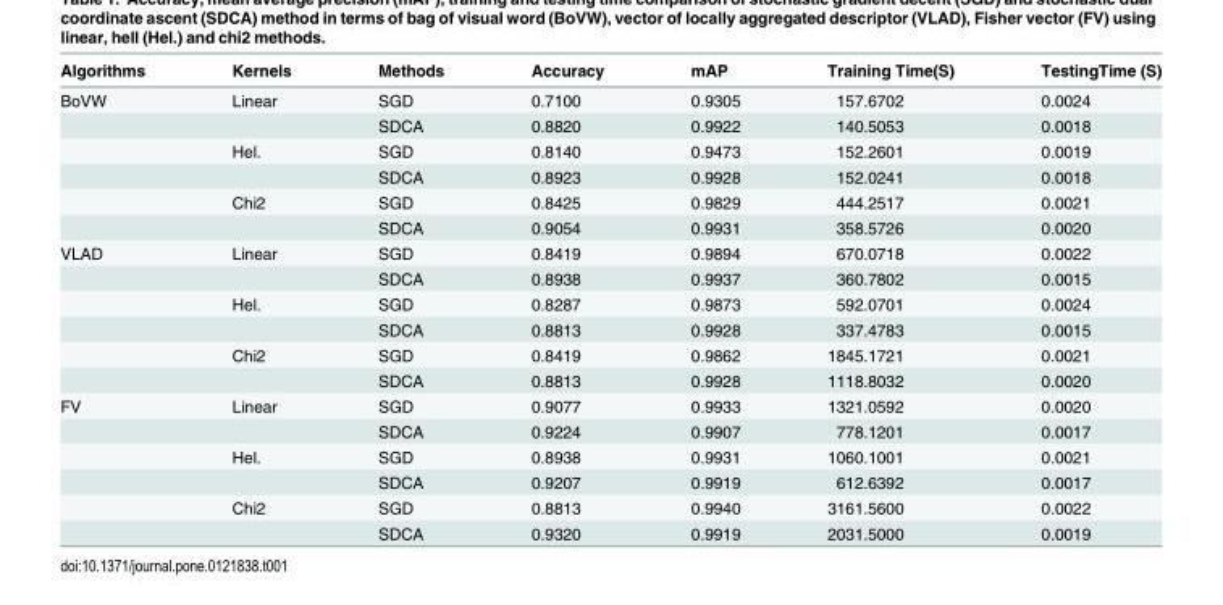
<table><thead><tr><td>Algorithms</td><td>Kernels</td><td>Methods</td><td>Accuracy</td><td>mAP</td><td>Training Time(S)</td><td>TestingTime (S)</td></tr></thead><tbody><tr><td rowspan="6">BoVW</td><td>Linear</td><td>SGD</td><td>0.7100</td><td>0.9305</td><td>157.6702</td><td>0.0024</td></tr><tr><td></td><td>SDCA</td><td>0.8820</td><td>0.9922</td><td>140.5053</td><td>0.0018</td></tr><tr><td>Hel.</td><td>SGD</td><td>0.8140</td><td>0.9473</td><td>152.2601</td><td>0.0019</td></tr><tr><td></td><td>SDCA</td><td>0.8923</td><td>0.9928</td><td>152.0241</td><td>0.0018</td></tr><tr><td>Chi2</td><td>SGD</td><td>0.8425</td><td>0.9829</td><td>444.2517</td><td>0.0021</td></tr><tr><td></td><td>SDCA</td><td>0.9054</td><td>0.9931</td><td>358.5726</td><td>0.0020</td></tr><tr><td rowspan="6">VLAD</td><td>Linear</td><td>SGD</td><td>0.8419</td><td>0.9894</td><td>670.0718</td><td>0.0022</td></tr><tr><td></td><td>SDCA</td><td>0.8938</td><td>0.9937</td><td>360.7802</td><td>0.0015</td></tr><tr><td>Hel.</td><td>SGD</td><td>0.8287</td><td>0.9873</td><td>592.0701</td><td>0.0024</td></tr><tr><td></td><td>SDCA</td><td>0.8813</td><td>0.9928</td><td>337.4783</td><td>0.0015</td></tr><tr><td>Chi2</td><td>SGD</td><td>0.8419</td><td>0.9862</td><td>1845.1721</td><td>0.0021</td></tr><tr><td></td><td>SDCA</td><td>0.8813</td><td>0.9928</td><td>1118.8032</td><td>0.0020</td></tr><tr><td rowspan="6">FV</td><td>Linear</td><td>SGD</td><td>0.9077</td><td>0.9933</td><td>1321.0592</td><td>0.0020</td></tr><tr><td></td><td>SDCA</td><td>0.9224</td><td>0.9907</td><td>778.1201</td><td>0.0017</td></tr><tr><td>Hel.</td><td>SGD</td><td>0.8938</td><td>0.9931</td><td>1060.1001</td><td>0.0021</td></tr><tr><td></td><td>SDCA</td><td>0.9207</td><td>0.9919</td><td>612.6392</td><td>0.0017</td></tr><tr><td>Chi2</td><td>SGD</td><td>0.8813</td><td>0.9940</td><td>3161.5600</td><td>0.0022</td></tr><tr><td></td><td>SDCA</td><td>0.9320</td><td>0.9919</td><td>2031.5000</td><td>0.0019</td></tr></tbody></table>